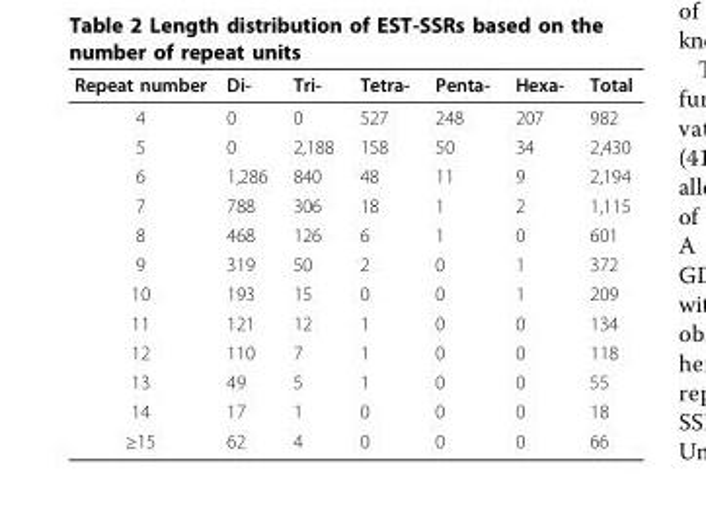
<table><thead><tr><td>Repeat number</td><td>Di-</td><td>Tri-</td><td>Tetra-</td><td>Penta-</td><td>Hexa-</td><td>Total</td></tr></thead><tbody><tr><td>4</td><td>0</td><td>0</td><td>527</td><td>248</td><td>207</td><td>982</td></tr><tr><td>5</td><td>0</td><td>2,188</td><td>158</td><td>50</td><td>34</td><td>2,430</td></tr><tr><td>6</td><td>1,286</td><td>840</td><td>48</td><td>11</td><td>9</td><td>2,194</td></tr><tr><td>7</td><td>788</td><td>306</td><td>18</td><td>1</td><td>2</td><td>1,115</td></tr><tr><td>8</td><td>468</td><td>126</td><td>6</td><td>1</td><td>0</td><td>601</td></tr><tr><td>9</td><td>319</td><td>50</td><td>2</td><td>0</td><td>1</td><td>372</td></tr><tr><td>10</td><td>193</td><td>15</td><td>0</td><td>0</td><td>1</td><td>209</td></tr><tr><td>11</td><td>121</td><td>12</td><td>1</td><td>0</td><td>0</td><td>134</td></tr><tr><td>12</td><td>110</td><td>7</td><td>1</td><td>0</td><td>0</td><td>118</td></tr><tr><td>13</td><td>49</td><td>5</td><td>1</td><td>0</td><td>0</td><td>55</td></tr><tr><td>14</td><td>17</td><td>1</td><td>0</td><td>0</td><td>0</td><td>18</td></tr><tr><td>≥15</td><td>62</td><td>4</td><td>0</td><td>0</td><td>0</td><td>66</td></tr></tbody></table>